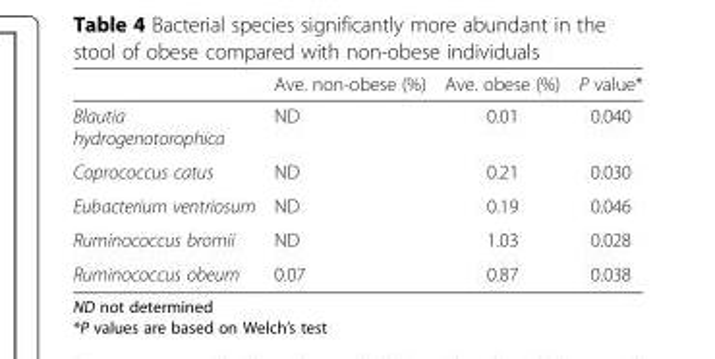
<table><thead><tr><td></td><td>Ave. non-obese (%)</td><td>Ave. obese (%)</td><td>P value*</td></tr></thead><tbody><tr><td>Blautia hydrogenotorophica</td><td>ND</td><td>0.01</td><td>0.040</td></tr><tr><td>Coprococcus catus</td><td>ND</td><td>0.21</td><td>0.030</td></tr><tr><td>Eubacterium ventriosum</td><td>ND</td><td>0.19</td><td>0.046</td></tr><tr><td>Ruminococcus bromii</td><td>ND</td><td>1.03</td><td>0.028</td></tr><tr><td>Ruminococcus obeum</td><td>0.07</td><td>0.87</td><td>0.038</td></tr></tbody></table>